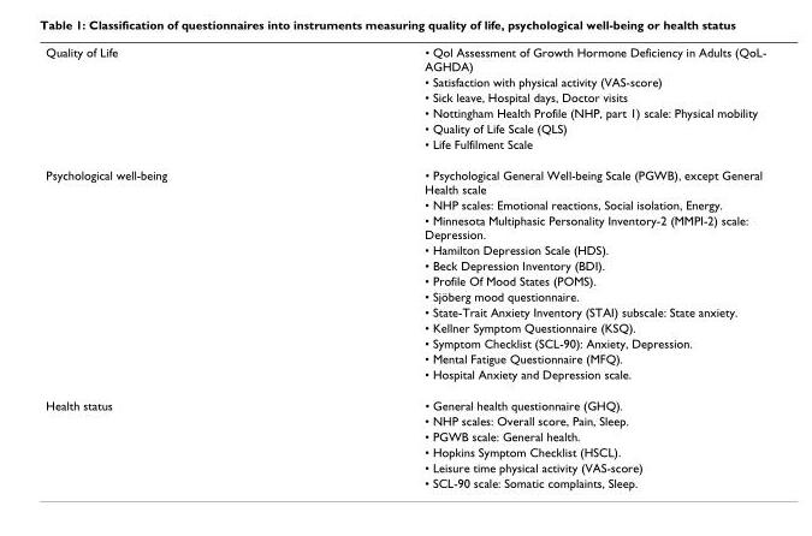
<table><tbody><tr><td rowspan="6">Quality of Life</td><td>• Qol Assessment of Growth Hormone Deficiency in Adults (QoL- AGHDA)</td></tr><tr><td>• Satisfaction with physical activity (VAS-score)</td></tr><tr><td>• Sick leave, Hospital days, Doctor visits</td></tr><tr><td>• Nottingham Health Profile (NHP, part 1) scale: Physical mobility</td></tr><tr><td>• Quality of Life Scale (QLS)</td></tr><tr><td>• Life Fulfilment Scale</td></tr><tr><td rowspan="12">Psychological well-being</td><td>• Psychological General Well-being Scale (PGWB), except General Health scale</td></tr><tr><td>• NHP scales: Emotional reactions, Social isolation, Energy.</td></tr><tr><td>• Minnesota Multiphasic Personality Inventory-2 (MMPI-2) scale: Depression.</td></tr><tr><td>• Hamilton Depression Scale (HDS).</td></tr><tr><td>• Beck Depression Inventory (BDI).</td></tr><tr><td>• Profile Of Mood States (POMS).</td></tr><tr><td>• Sjöberg mood questionnaire.</td></tr><tr><td>• State-Trait Anxiety Inventory (STAI) subscale: State anxiety.</td></tr><tr><td>• Kellner Symptom Questionnaire (KSQ).</td></tr><tr><td>• Symptom Checklist (SCL-90): Anxiety, Depression.</td></tr><tr><td>• Mental Fatigue Questionnaire (MFQ).</td></tr><tr><td>• Hospital Anxiety and Depression scale.</td></tr><tr><td rowspan="6">Health status</td><td>• General health questionnaire (GHQ).</td></tr><tr><td>• NHP scales: Overall score, Pain, Sleep.</td></tr><tr><td>• PGWB scale: General health.</td></tr><tr><td>• Hopkins Symptom Checklist (HSCL).</td></tr><tr><td>• Leisure time physical activity (VAS-score)</td></tr><tr><td>• SCL-90 scale: Somatic complaints, Sleep.</td></tr></tbody></table>